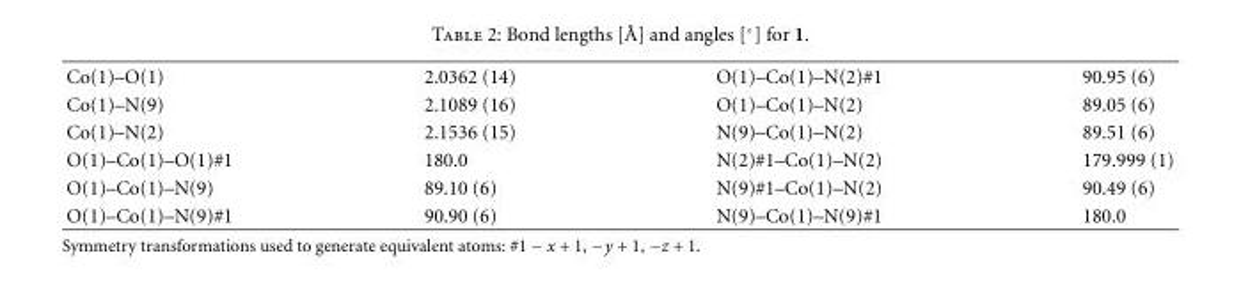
<table><tbody><tr><td>Co(1)–O(1)</td><td>2.0362 (14)</td><td>O(1)–Co(1)–N(2)#1</td><td>90.95 (6)</td></tr><tr><td>Co(1)–N(9)</td><td>2.1089 (16)</td><td>O(1)–Co(1)–N(2)</td><td>89.05 (6)</td></tr><tr><td>Co(1)–N(2)</td><td>2.1536 (15)</td><td>N(9)–Co(1)–N(2)</td><td>89.51 (6)</td></tr><tr><td>O(1)–Co(1)–O(1)#1</td><td>180.0</td><td>N(2)#1–Co(1)–N(2)</td><td>179.999 (1)</td></tr><tr><td>O(1)–Co(1)–N(9)</td><td>89.10 (6)</td><td>N(9)#1–Co(1)–N(2)</td><td>90.49 (6)</td></tr><tr><td>O(1)–Co(1)–N(9)#1</td><td>90.90 (6)</td><td>N(9)–Co(1)–N(9)#1</td><td>180.0</td></tr></tbody></table>